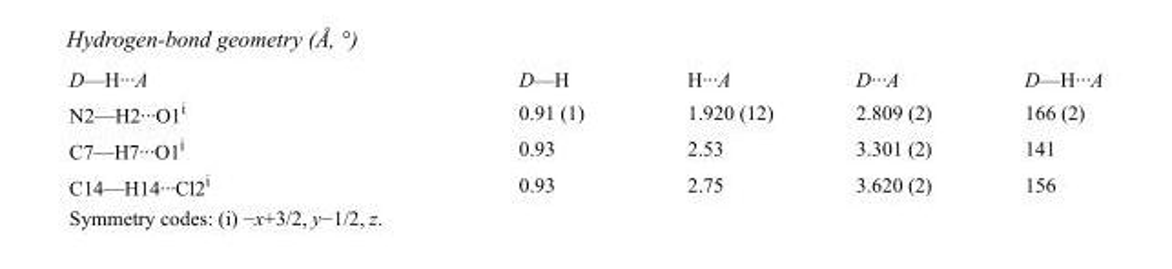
<table><tbody><tr><td>D—H···A</td><td>D—H</td><td>H···A</td><td>D···A</td><td>D—H···A</td></tr><tr><td>N2—H2···O1<sup>i</sup></td><td>0.91 (1)</td><td>1.920 (12)</td><td>2.809 (2)</td><td>166 (2)</td></tr><tr><td>C7—H7···O1<sup>i</sup></td><td>0.93</td><td>2.53</td><td>3.301 (2)</td><td>141</td></tr><tr><td>C14—H14···Cl2<sup>i</sup></td><td>0.93</td><td>2.75</td><td>3.620 (2)</td><td>156</td></tr></tbody></table>